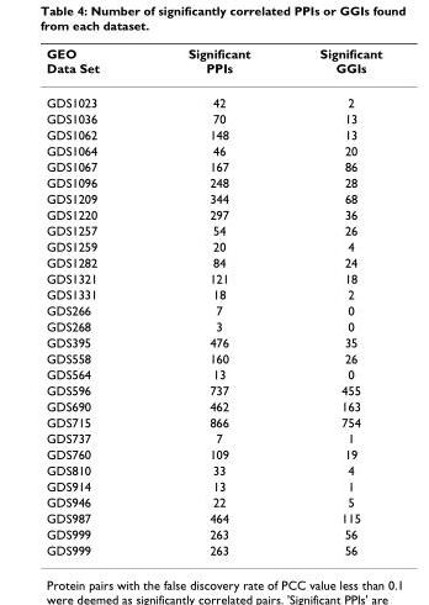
<table><thead><tr><td>GEO Data Set</td><td>Significant PPIs</td><td>Significant GGIs</td></tr></thead><tbody><tr><td>GDS1023</td><td>42</td><td>2</td></tr><tr><td>GDS1036</td><td>70</td><td>13</td></tr><tr><td>GDS1062</td><td>148</td><td>13</td></tr><tr><td>GDS1064</td><td>46</td><td>20</td></tr><tr><td>GDS1067</td><td>167</td><td>86</td></tr><tr><td>GDS1096</td><td>248</td><td>28</td></tr><tr><td>GDS1209</td><td>344</td><td>68</td></tr><tr><td>GDS1220</td><td>297</td><td>36</td></tr><tr><td>GDS1257</td><td>54</td><td>26</td></tr><tr><td>GDS1259</td><td>20</td><td>4</td></tr><tr><td>GDS1282</td><td>84</td><td>24</td></tr><tr><td>GDS1321</td><td>121</td><td>18</td></tr><tr><td>GDS1331</td><td>18</td><td>2</td></tr><tr><td>GDS266</td><td>7</td><td>0</td></tr><tr><td>GDS268</td><td>3</td><td>0</td></tr><tr><td>GDS395</td><td>476</td><td>35</td></tr><tr><td>GDS558</td><td>160</td><td>26</td></tr><tr><td>GDS564</td><td>13</td><td>0</td></tr><tr><td>GDS596</td><td>737</td><td>455</td></tr><tr><td>GDS690</td><td>462</td><td>163</td></tr><tr><td>GDS715</td><td>866</td><td>754</td></tr><tr><td>GDS737</td><td>7</td><td>1</td></tr><tr><td>GDS760</td><td>109</td><td>19</td></tr><tr><td>GDS810</td><td>33</td><td>4</td></tr><tr><td>GDS914</td><td>13</td><td>1</td></tr><tr><td>GDS946</td><td>22</td><td>5</td></tr><tr><td>GDS987</td><td>464</td><td>115</td></tr><tr><td>GDS999</td><td>263</td><td>56</td></tr><tr><td>GDS999</td><td>263</td><td>56</td></tr></tbody></table>